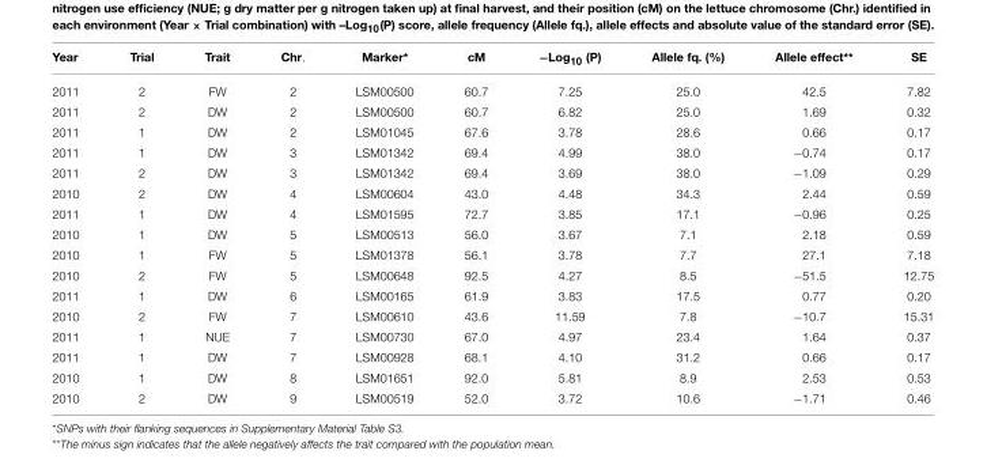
<table><thead><tr><td>Year</td><td>Trial</td><td>Trait</td><td>Chr.</td><td>Marker*</td><td>cM</td><td>−Log<sub>10</sub> (P)</td><td>Allele fq. (%)</td><td>Allele effect**</td><td>SE</td></tr></thead><tbody><tr><td>2011</td><td>2</td><td>FW</td><td>2</td><td>LSM00500</td><td>60.7</td><td>7.25</td><td>25.0</td><td>42.5</td><td>7.82</td></tr><tr><td>2011</td><td>2</td><td>DW</td><td>2</td><td>LSM00500</td><td>60.7</td><td>6.82</td><td>25.0</td><td>1.69</td><td>0.32</td></tr><tr><td>2011</td><td>1</td><td>DW</td><td>2</td><td>LSM01045</td><td>67.6</td><td>3.78</td><td>28.6</td><td>0.66</td><td>0.17</td></tr><tr><td>2011</td><td>1</td><td>DW</td><td>3</td><td>LSM01342</td><td>69.4</td><td>4.99</td><td>38.0</td><td>−0.74</td><td>0.17</td></tr><tr><td>2011</td><td>2</td><td>DW</td><td>3</td><td>LSM01342</td><td>69.4</td><td>3.69</td><td>38.0</td><td>−1.09</td><td>0.29</td></tr><tr><td>2010</td><td>2</td><td>DW</td><td>4</td><td>LSM00604</td><td>43.0</td><td>4.48</td><td>34.3</td><td>2.44</td><td>0.59</td></tr><tr><td>2011</td><td>1</td><td>DW</td><td>4</td><td>LSM01595</td><td>72.7</td><td>3.85</td><td>17.1</td><td>−0.96</td><td>0.25</td></tr><tr><td>2010</td><td>1</td><td>DW</td><td>5</td><td>LSM00513</td><td>56.0</td><td>3.67</td><td>7.1</td><td>2.18</td><td>0.59</td></tr><tr><td>2010</td><td>1</td><td>FW</td><td>5</td><td>LSM01378</td><td>56.1</td><td>3.78</td><td>7.7</td><td>27.1</td><td>7.18</td></tr><tr><td>2010</td><td>2</td><td>FW</td><td>5</td><td>LSM00648</td><td>92.5</td><td>4.27</td><td>8.5</td><td>−51.5</td><td>12.75</td></tr><tr><td>2011</td><td>1</td><td>DW</td><td>6</td><td>LSM00165</td><td>61.9</td><td>3.83</td><td>17.5</td><td>0.77</td><td>0.20</td></tr><tr><td>2010</td><td>2</td><td>FW</td><td>7</td><td>LSM00610</td><td>43.6</td><td>11.59</td><td>7.8</td><td>−10.7</td><td>15.31</td></tr><tr><td>2011</td><td>1</td><td>NUE</td><td>7</td><td>LSM00730</td><td>67.0</td><td>4.97</td><td>23.4</td><td>1.64</td><td>0.37</td></tr><tr><td>2011</td><td>1</td><td>DW</td><td>7</td><td>LSM00928</td><td>68.1</td><td>4.10</td><td>31.2</td><td>0.66</td><td>0.17</td></tr><tr><td>2010</td><td>1</td><td>DW</td><td>8</td><td>LSM01651</td><td>92.0</td><td>5.81</td><td>8.9</td><td>2.53</td><td>0.53</td></tr><tr><td>2010</td><td>2</td><td>DW</td><td>9</td><td>LSM00519</td><td>52.0</td><td>3.72</td><td>10.6</td><td>−1.71</td><td>0.46</td></tr></tbody></table>